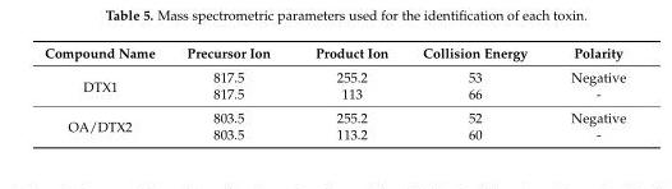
<table><thead><tr><td>Compound Name</td><td>Precursor Ion</td><td>Product Ion</td><td>Collision Energy</td><td>Polarity</td></tr></thead><tbody><tr><td rowspan="2">DTX1</td><td>817.5</td><td>255.2</td><td>53</td><td>Negative</td></tr><tr><td>817.5</td><td>113</td><td>66</td><td>-</td></tr><tr><td rowspan="2">OA/DTX2</td><td>803.5</td><td>255.2</td><td>52</td><td>Negative</td></tr><tr><td>803.5</td><td>113.2</td><td>60</td><td>-</td></tr></tbody></table>